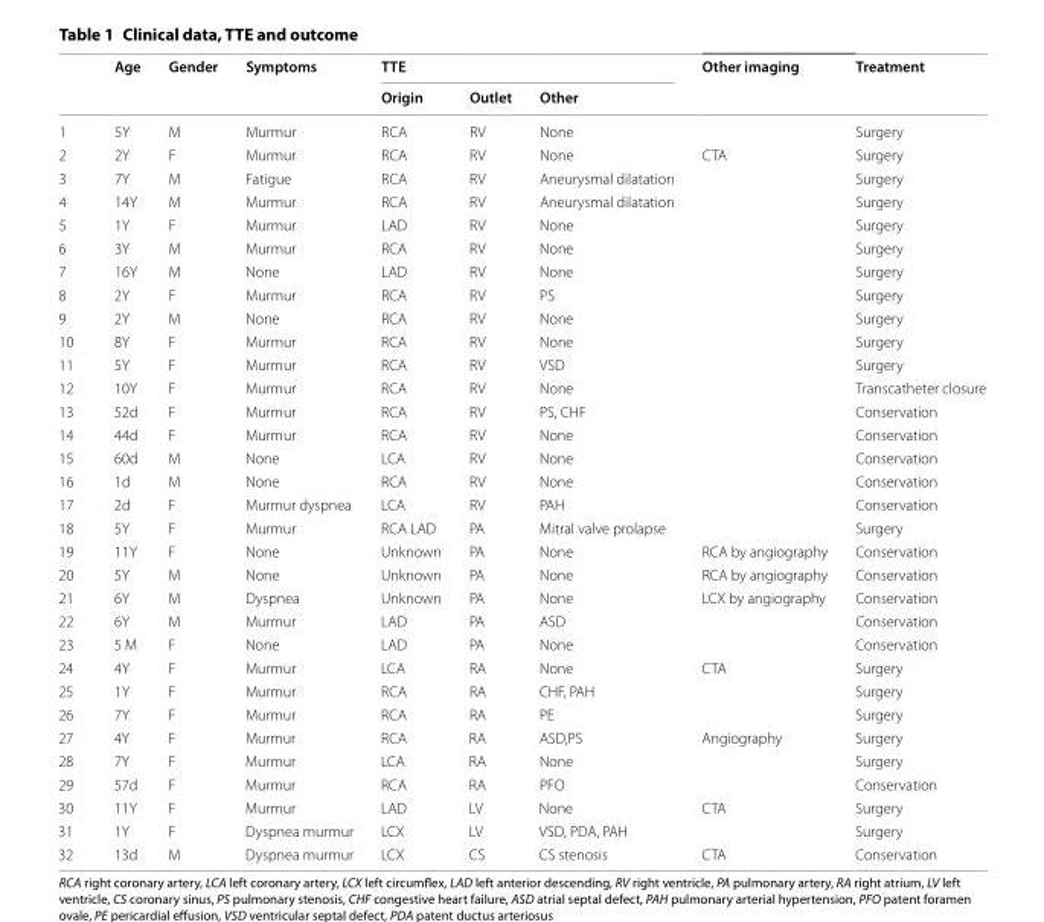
<table><thead><tr><td rowspan="2"></td><td rowspan="2">Age</td><td rowspan="2">Gender</td><td rowspan="2">Symptoms</td><td colspan="3">TTE</td><td rowspan="2">Other imaging</td><td rowspan="2">Treatment</td></tr><tr><td>Origin</td><td>Outlet</td><td>Other</td></tr></thead><tbody><tr><td>1</td><td>5Y</td><td>M</td><td>Murmur</td><td>RCA</td><td>RV</td><td>None</td><td></td><td>Surgery</td></tr><tr><td>2</td><td>2Y</td><td>F</td><td>Murmur</td><td>RCA</td><td>RV</td><td>None</td><td>CTA</td><td>Surgery</td></tr><tr><td>3</td><td>7Y</td><td>M</td><td>Fatigue</td><td>RCA</td><td>RV</td><td>Aneurysmal dilatation</td><td></td><td>Surgery</td></tr><tr><td>4</td><td>14Y</td><td>M</td><td>Murmur</td><td>RCA</td><td>RV</td><td>Aneurysmal dilatation</td><td></td><td>Surgery</td></tr><tr><td>5</td><td>1Y</td><td>F</td><td>Murmur</td><td>LAD</td><td>RV</td><td>None</td><td></td><td>Surgery</td></tr><tr><td>6</td><td>3Y</td><td>M</td><td>Murmur</td><td>RCA</td><td>RV</td><td>None</td><td></td><td>Surgery</td></tr><tr><td>7</td><td>16Y</td><td>M</td><td>None</td><td>LAD</td><td>RV</td><td>None</td><td></td><td>Surgery</td></tr><tr><td>8</td><td>2Y</td><td>F</td><td>Murmur</td><td>RCA</td><td>RV</td><td>PS</td><td></td><td>Surgery</td></tr><tr><td>9</td><td>2Y</td><td>M</td><td>None</td><td>RCA</td><td>RV</td><td>None</td><td></td><td>Surgery</td></tr><tr><td>10</td><td>8Y</td><td>F</td><td>Murmur</td><td>RCA</td><td>RV</td><td>None</td><td></td><td>Surgery</td></tr><tr><td>11</td><td>5Y</td><td>F</td><td>Murmur</td><td>RCA</td><td>RV</td><td>VSD</td><td></td><td>Surgery</td></tr><tr><td>12</td><td>10Y</td><td>F</td><td>Murmur</td><td>RCA</td><td>RV</td><td>None</td><td></td><td>Transcatheter closure</td></tr><tr><td>13</td><td>52d</td><td>F</td><td>Murmur</td><td>RCA</td><td>RV</td><td>PS, CHF</td><td></td><td>Conservation</td></tr><tr><td>14</td><td>44d</td><td>F</td><td>Murmur</td><td>RCA</td><td>RV</td><td>None</td><td></td><td>Conservation</td></tr><tr><td>15</td><td>60d</td><td>M</td><td>None</td><td>LCA</td><td>RV</td><td>None</td><td></td><td>Conservation</td></tr><tr><td>16</td><td>1d</td><td>M</td><td>None</td><td>RCA</td><td>RV</td><td>None</td><td></td><td>Conservation</td></tr><tr><td>17</td><td>2d</td><td>F</td><td>Murmur dyspnea</td><td>LCA</td><td>RV</td><td>PAH</td><td></td><td>Conservation</td></tr><tr><td>18</td><td>5Y</td><td>F</td><td>Murmur</td><td>RCA LAD</td><td>PA</td><td>Mitral valve prolapse</td><td></td><td>Surgery</td></tr><tr><td>19</td><td>11Y</td><td>F</td><td>None</td><td>Unknown</td><td>PA</td><td>None</td><td>RCA by angiography</td><td>Conservation</td></tr><tr><td>20</td><td>5Y</td><td>M</td><td>None</td><td>Unknown</td><td>PA</td><td>None</td><td>RCA by angiography</td><td>Conservation</td></tr><tr><td>21</td><td>6Y</td><td>M</td><td>Dyspnea</td><td>Unknown</td><td>PA</td><td>None</td><td>LCX by angiography</td><td>Conservation</td></tr><tr><td>22</td><td>6Y</td><td>M</td><td>Murmur</td><td>LAD</td><td>PA</td><td>ASD</td><td></td><td>Conservation</td></tr><tr><td>23</td><td>5 M</td><td>F</td><td>None</td><td>LAD</td><td>PA</td><td>None</td><td></td><td>Conservation</td></tr><tr><td>24</td><td>4Y</td><td>F</td><td>Murmur</td><td>LCA</td><td>RA</td><td>None</td><td>CTA</td><td>Surgery</td></tr><tr><td>25</td><td>1Y</td><td>F</td><td>Murmur</td><td>RCA</td><td>RA</td><td>CHF, PAH</td><td></td><td>Surgery</td></tr><tr><td>26</td><td>7Y</td><td>F</td><td>Murmur</td><td>RCA</td><td>RA</td><td>PE</td><td></td><td>Surgery</td></tr><tr><td>27</td><td>4Y</td><td>F</td><td>Murmur</td><td>RCA</td><td>RA</td><td>ASD,PS</td><td>Angiography</td><td>Surgery</td></tr><tr><td>28</td><td>7Y</td><td>F</td><td>Murmur</td><td>LCA</td><td>RA</td><td>None</td><td></td><td>Surgery</td></tr><tr><td>29</td><td>57d</td><td>F</td><td>Murmur</td><td>RCA</td><td>RA</td><td>PFO</td><td></td><td>Conservation</td></tr><tr><td>30</td><td>11Y</td><td>F</td><td>Murmur</td><td>LAD</td><td>LV</td><td>None</td><td>CTA</td><td>Surgery</td></tr><tr><td>31</td><td>1Y</td><td>F</td><td>Dyspnea murmur</td><td>LCX</td><td>LV</td><td>VSD, PDA, PAH</td><td></td><td>Surgery</td></tr><tr><td>32</td><td>13d</td><td>M</td><td>Dyspnea murmur</td><td>LCX</td><td>CS</td><td>CS stenosis</td><td>CTA</td><td>Conservation</td></tr></tbody></table>